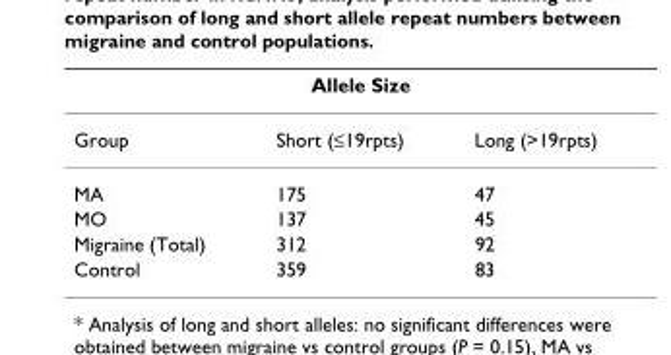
<table><thead><tr><td colspan="3">Allele Size</td></tr><tr><td>Group</td><td>Short (≤19rpts)</td><td>Long (&gt;19rpts)</td></tr></thead><tbody><tr><td>MA</td><td>175</td><td>47</td></tr><tr><td>MO</td><td>137</td><td>45</td></tr><tr><td>Migraine (Total)</td><td>312</td><td>92</td></tr><tr><td>Control</td><td>359</td><td>83</td></tr></tbody></table>